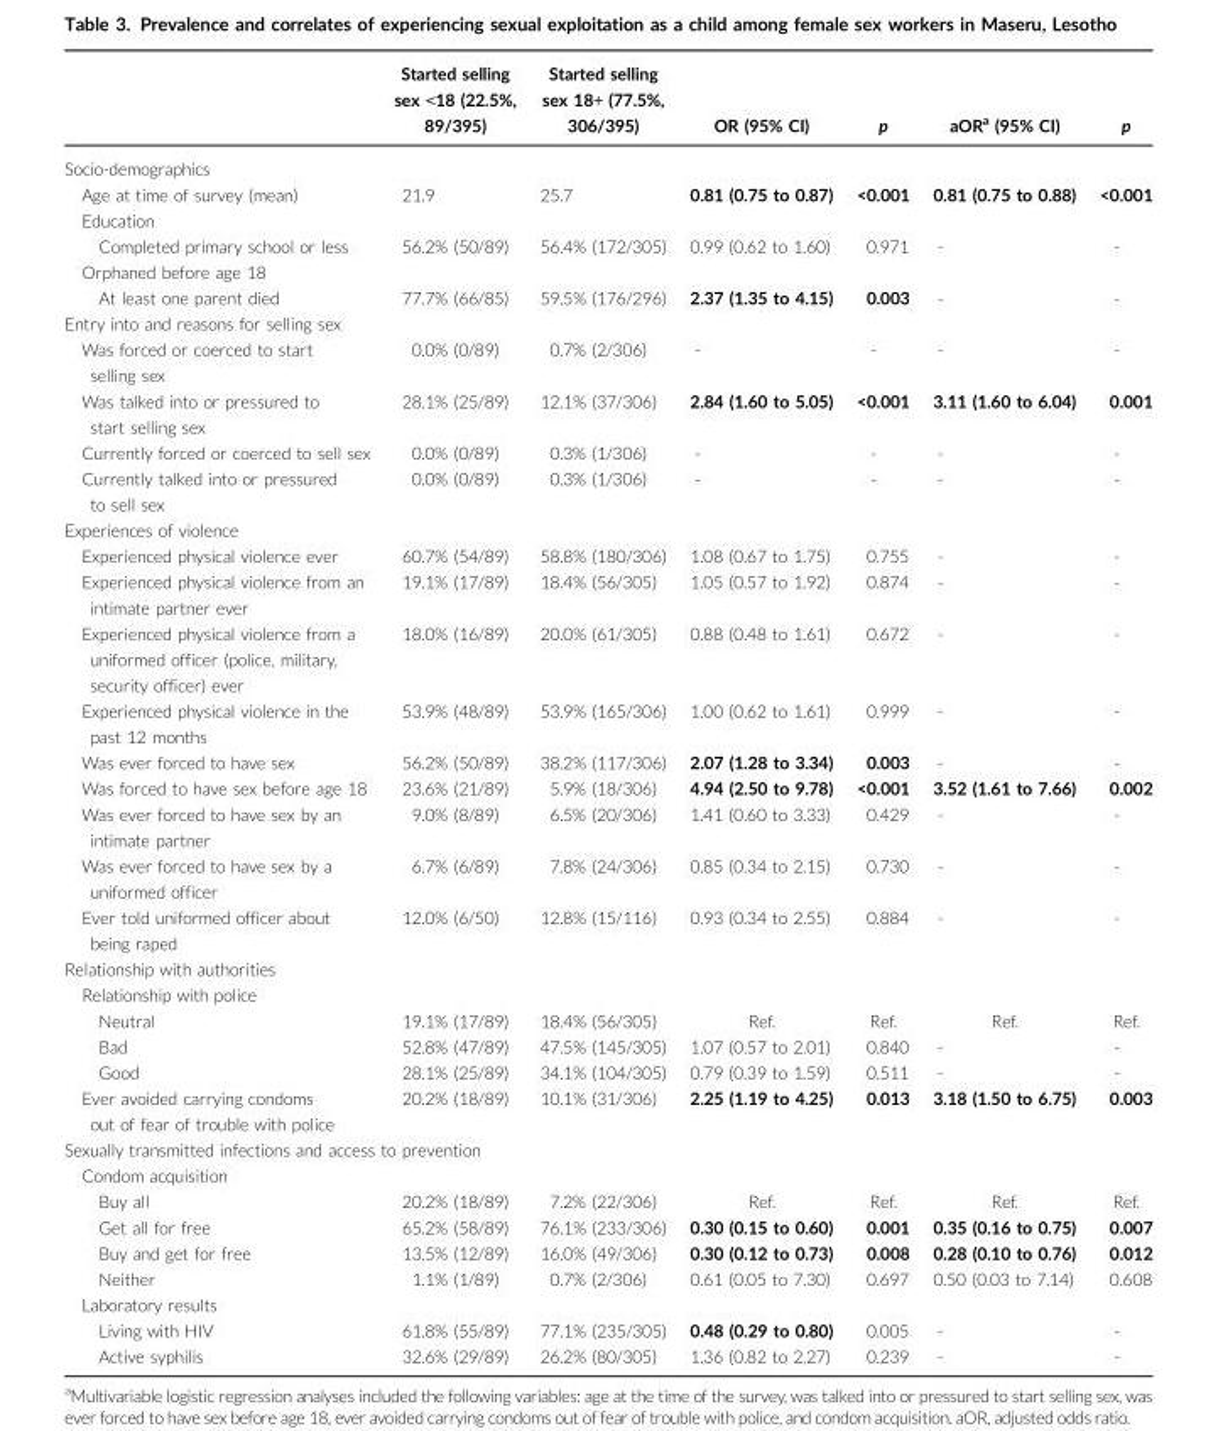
<table><thead><tr><td></td><td>Started selling sex &lt;18 (22.5%, 89/395)</td><td>Started selling sex 18+ (77.5%, 306/395)</td><td>OR (95% CI)</td><td>p</td><td>aOR<sup>a</sup> (95% CI)</td><td>p</td></tr></thead><tbody><tr><td colspan="7">Socio-demographics</td></tr><tr><td>Age at time of survey (mean)</td><td>21.9</td><td>25.7</td><td>0.81 (0.75 to 0.87)</td><td>&lt;0.001</td><td>0.81 (0.75 to 0.88)</td><td>&lt;0.001</td></tr><tr><td colspan="7">Education</td></tr><tr><td>Completed primary school or less</td><td>56.2% (50/89)</td><td>56.4% (172/305)</td><td>0.99 (0.62 to 1.60)</td><td>0.971</td><td>-</td><td>-</td></tr><tr><td colspan="7">Orphaned before age 18</td></tr><tr><td>At least one parent died</td><td>77.7% (66/85)</td><td>59.5% (176/296)</td><td>2.37 (1.35 to 4.15)</td><td>0.003</td><td>-</td><td>-</td></tr><tr><td colspan="7">Entry into and reasons for selling sex</td></tr><tr><td>Was forced or coerced to start selling sex</td><td>0.0% (0/89)</td><td>0.7% (2/306)</td><td>-</td><td>-</td><td>-</td><td>-</td></tr><tr><td>Was talked into or pressured to start selling sex</td><td>28.1% (25/89)</td><td>12.1% (37/306)</td><td>2.84 (1.60 to 5.05)</td><td>&lt;0.001</td><td>3.11 (1.60 to 6.04)</td><td>0.001</td></tr><tr><td>Currently forced or coerced to sell sex</td><td>0.0% (0/89)</td><td>0.3% (1/306)</td><td>-</td><td>-</td><td>-</td><td>-</td></tr><tr><td>Currently talked into or pressured to sell sex</td><td>0.0% (0/89)</td><td>0.3% (1/306)</td><td>-</td><td>-</td><td>-</td><td>-</td></tr><tr><td colspan="7">Experiences of violence</td></tr><tr><td>Experienced physical violence ever</td><td>60.7% (54/89)</td><td>58.8% (180/306)</td><td>1.08 (0.67 to 1.75)</td><td>0.755</td><td>-</td><td>-</td></tr><tr><td>Experienced physical violence from an intimate partner ever</td><td>19.1% (17/89)</td><td>18.4% (56/305)</td><td>1.05 (0.57 to 1.92)</td><td>0.874</td><td>-</td><td>-</td></tr><tr><td>Experienced physical violence from a uniformed officer (police, military, security officer) ever</td><td>18.0% (16/89)</td><td>20.0% (61/305)</td><td>0.88 (0.48 to 1.61)</td><td>0.672</td><td>-</td><td>-</td></tr><tr><td>Experienced physical violence in the past 12 months</td><td>53.9% (48/89)</td><td>53.9% (165/306)</td><td>1.00 (0.62 to 1.61)</td><td>0.999</td><td>-</td><td>-</td></tr><tr><td>Was ever forced to have sex</td><td>56.2% (50/89)</td><td>38.2% (117/306)</td><td>2.07 (1.28 to 3.34)</td><td>0.003</td><td>-</td><td>-</td></tr><tr><td>Was forced to have sex before age 18</td><td>23.6% (21/89)</td><td>5.9% (18/306)</td><td>4.94 (2.50 to 9.78)</td><td>&lt;0.001</td><td>3.52 (1.61 to 7.66)</td><td>0.002</td></tr><tr><td>Was ever forced to have sex by an intimate partner</td><td>9.0% (8/89)</td><td>6.5% (20/306)</td><td>1.41 (0.60 to 3.33)</td><td>0.429</td><td>-</td><td>-</td></tr><tr><td>Was ever forced to have sex by a uniformed officer</td><td>6.7% (6/89)</td><td>7.8% (24/306)</td><td>0.85 (0.34 to 2.15)</td><td>0.730</td><td>-</td><td>-</td></tr><tr><td>Ever told uniformed officer about being raped</td><td>12.0% (6/50)</td><td>12.8% (15/116)</td><td>0.93 (0.34 to 2.55)</td><td>0.884</td><td>-</td><td>-</td></tr><tr><td colspan="7">Relationship with authorities</td></tr><tr><td colspan="7">Relationship with police</td></tr><tr><td>Neutral</td><td>19.1% (17/89)</td><td>18.4% (56/305)</td><td>Ref.</td><td>Ref.</td><td>Ref.</td><td>Ref.</td></tr><tr><td>Bad</td><td>52.8% (47/89)</td><td>47.5% (145/305)</td><td>1.07 (0.57 to 2.01)</td><td>0.840</td><td>-</td><td>-</td></tr><tr><td>Good</td><td>28.1% (25/89)</td><td>34.1% (104/305)</td><td>0.79 (0.39 to 1.59)</td><td>0.511</td><td>-</td><td>-</td></tr><tr><td>Ever avoided carrying condoms out of fear of trouble with police</td><td>20.2% (18/89)</td><td>10.1% (31/306)</td><td>2.25 (1.19 to 4.25)</td><td>0.013</td><td>3.18 (1.50 to 6.75)</td><td>0.003</td></tr><tr><td colspan="7">Sexually transmitted infections and access to prevention</td></tr><tr><td colspan="7">Condom acquisition</td></tr><tr><td>Buy all</td><td>20.2% (18/89)</td><td>7.2% (22/306)</td><td>Ref.</td><td>Ref.</td><td>Ref.</td><td>Ref.</td></tr><tr><td>Get all for free</td><td>65.2% (58/89)</td><td>76.1% (233/306)</td><td>0.30 (0.15 to 0.60)</td><td>0.001</td><td>0.35 (0.16 to 0.75)</td><td>0.007</td></tr><tr><td>Buy and get for free</td><td>13.5% (12/89)</td><td>16.0% (49/306)</td><td>0.30 (0.12 to 0.73)</td><td>0.008</td><td>0.28 (0.10 to 0.76)</td><td>0.012</td></tr><tr><td>Neither</td><td>1.1% (1/89)</td><td>0.7% (2/306)</td><td>0.61 (0.05 to 7.30)</td><td>0.697</td><td>0.50 (0.03 to 7.14)</td><td>0.608</td></tr><tr><td colspan="7">Laboratory results</td></tr><tr><td>Living with HIV</td><td>61.8% (55/89)</td><td>77.1% (235/305)</td><td>0.48 (0.29 to 0.80)</td><td>0.005</td><td>-</td><td>-</td></tr><tr><td>Active syphilis</td><td>32.6% (29/89)</td><td>26.2% (80/305)</td><td>1.36 (0.82 to 2.27)</td><td>0.239</td><td>-</td><td>-</td></tr></tbody></table>